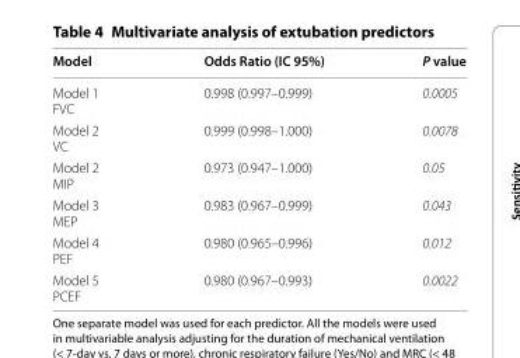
<table><thead><tr><td>Model</td><td>Odds Ratio (IC 95%)</td><td>P value</td></tr></thead><tbody><tr><td>Model 1 FVC</td><td>0.998 (0.997–0.999)</td><td>0.0005</td></tr><tr><td>Model 2 VC</td><td>0.999 (0.998–1.000)</td><td>0.0078</td></tr><tr><td>Model 2 MIP</td><td>0.973 (0.947–1.000)</td><td>0.05</td></tr><tr><td>Model 3 MEP</td><td>0.983 (0.967–0.999)</td><td>0.043</td></tr><tr><td>Model 4 PEF</td><td>0.980 (0.965–0.996)</td><td>0.012</td></tr><tr><td>Model 5 PCEF</td><td>0.980 (0.967–0.993)</td><td>0.0022</td></tr></tbody></table>